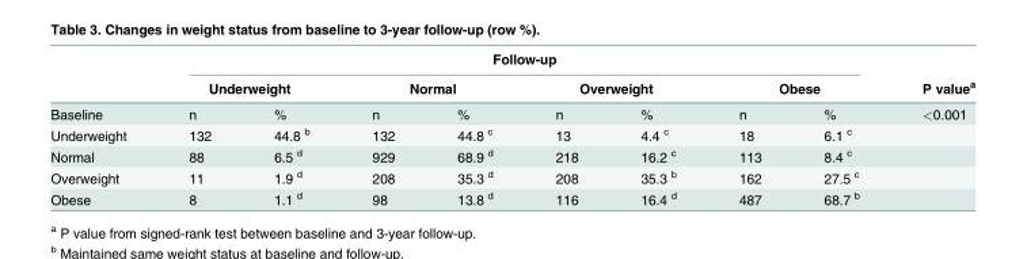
<table><thead><tr><td rowspan="3">Baseline</td><td colspan="8">Follow-up</td><td rowspan="3">P value<sup>a</sup> &lt;0.001</td></tr><tr><td colspan="2">Underweight</td><td colspan="2">Normal</td><td colspan="2">Overweight</td><td colspan="2">Obese</td></tr><tr><td>n</td><td>%</td><td>n</td><td>%</td><td>n</td><td>%</td><td>n</td><td>%</td></tr></thead><tbody><tr><td>Underweight</td><td>132</td><td>44.8 <sup>b</sup></td><td>132</td><td>44.8 <sup>c</sup></td><td>13</td><td>4.4 <sup>c</sup></td><td>18</td><td>6.1 <sup>c</sup></td><td></td></tr><tr><td>Normal</td><td>88</td><td>6.5 <sup>d</sup></td><td>929</td><td>68.9 <sup>d</sup></td><td>218</td><td>16.2 <sup>c</sup></td><td>113</td><td>8.4 <sup>c</sup></td><td></td></tr><tr><td>Overweight</td><td>11</td><td>1.9 <sup>d</sup></td><td>208</td><td>35.3 <sup>d</sup></td><td>208</td><td>35.3 <sup>b</sup></td><td>162</td><td>27.5 <sup>c</sup></td><td></td></tr><tr><td>Obese</td><td>8</td><td>1.1 <sup>d</sup></td><td>98</td><td>13.8 <sup>d</sup></td><td>116</td><td>16.4 <sup>d</sup></td><td>487</td><td>68.7 <sup>b</sup></td><td></td></tr></tbody></table>